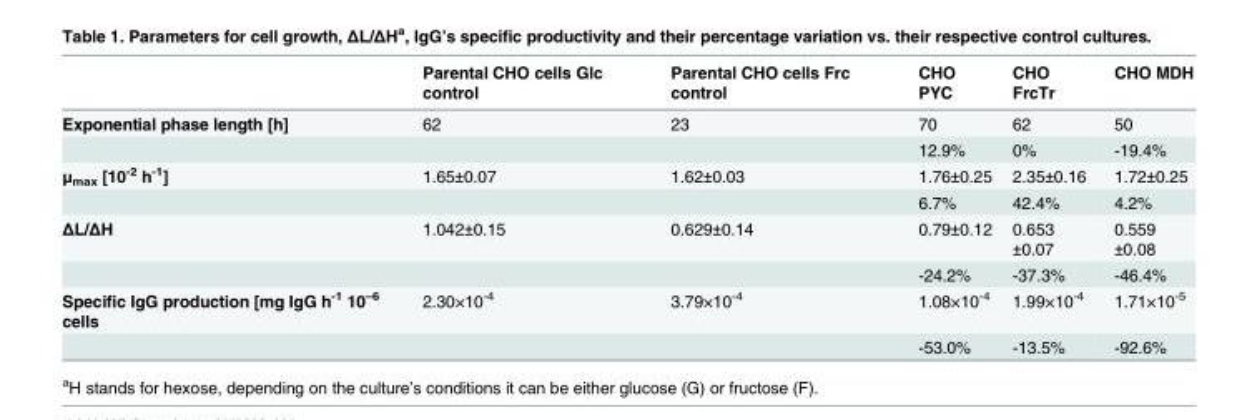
<table><thead><tr><td></td><td>Parental CHO cells Glc control</td><td>Parental CHO cells Frc control</td><td>CHO PYC</td><td>CHO FrcTr</td><td>CHO MDH</td></tr></thead><tbody><tr><td rowspan="2">Exponential phase length [h]</td><td>62</td><td>23</td><td>70</td><td>62</td><td>50</td></tr><tr><td></td><td></td><td>12.9%</td><td>0%</td><td>-19.4%</td></tr><tr><td rowspan="2">μ<sub>max</sub> [10<sup>-2</sup> h<sup>-1</sup>]</td><td>1.65±0.07</td><td>1.62±0.03</td><td>1.76±0.25</td><td>2.35±0.16</td><td>1.72±0.25</td></tr><tr><td></td><td></td><td>6.7%</td><td>42.4%</td><td>4.2%</td></tr><tr><td rowspan="2">ΔL/ΔH</td><td>1.042±0.15</td><td>0.629±0.14</td><td>0.79±0.12</td><td>0.653 ±0.07</td><td>0.559 ±0.08</td></tr><tr><td></td><td></td><td>-24.2%</td><td>-37.3%</td><td>-46.4%</td></tr><tr><td rowspan="2">Specific IgG production [mg IgG h<sup>-1</sup> 10<sup>–6</sup> cells</td><td>2.30×10<sup>-4</sup></td><td>3.79×10<sup>-4</sup></td><td>1.08×10<sup>-4</sup></td><td>1.99×10<sup>-4</sup></td><td>1.71×10<sup>-5</sup></td></tr><tr><td></td><td></td><td>-53.0%</td><td>-13.5%</td><td>-92.6%</td></tr></tbody></table>